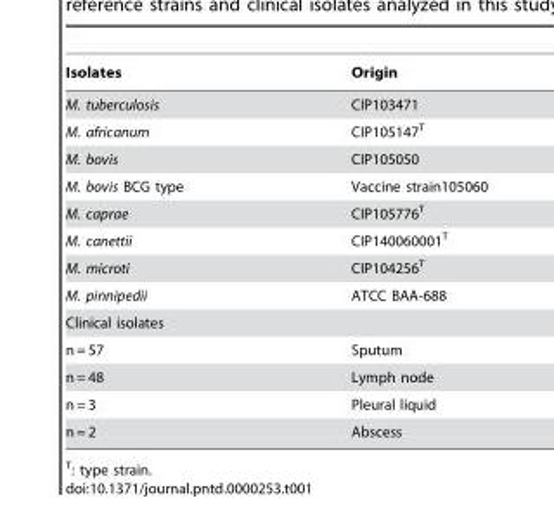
<table><thead><tr><td>Isolates</td><td>Origin</td></tr></thead><tbody><tr><td>M. tuberculosis</td><td>CIP103471</td></tr><tr><td>M. africanum</td><td>CIP105147<sup>T</sup></td></tr><tr><td>M. bovis</td><td>CIP105050</td></tr><tr><td>M. bovis BCG type</td><td>Vaccine strain105060</td></tr><tr><td>M. caprae</td><td>CIP105776<sup>T</sup></td></tr><tr><td>M. canettii</td><td>CIP140060001<sup>T</sup></td></tr><tr><td>M. microti</td><td>CIP104256<sup>T</sup></td></tr><tr><td>M. pinnipedii</td><td>ATCC BAA-688</td></tr><tr><td colspan="2">Clinical isolates</td></tr><tr><td>n = 57</td><td>Sputum</td></tr><tr><td>n = 48</td><td>Lymph node</td></tr><tr><td>n = 3</td><td>Pleural liquid</td></tr><tr><td>n = 2</td><td>Abscess</td></tr></tbody></table>